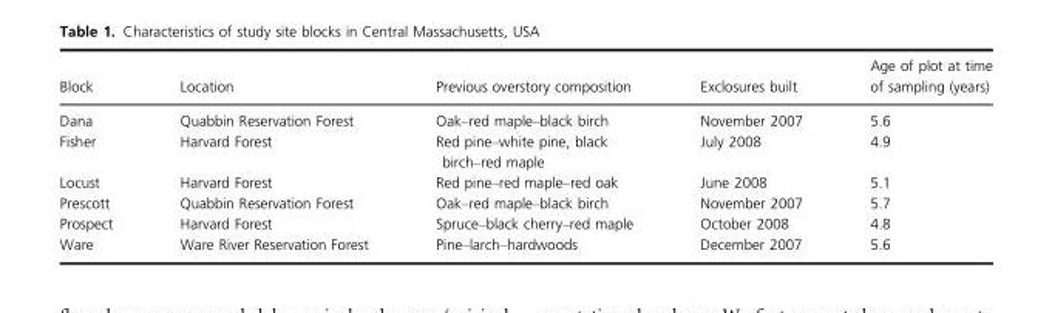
<table><thead><tr><td>Block</td><td>Location</td><td>Previous overstory composition</td><td>Exclosures built</td><td>Age of plot at time of sampling (years)</td></tr></thead><tbody><tr><td>Dana</td><td>Quabbin Reservation Forest</td><td>Oak–red maple–black birch</td><td>November 2007</td><td>5.6</td></tr><tr><td>Fisher</td><td>Harvard Forest</td><td>Red pine–white pine, black birch–red maple</td><td>July 2008</td><td>4.9</td></tr><tr><td>Locust</td><td>Harvard Forest</td><td>Red pine–red maple–red oak</td><td>June 2008</td><td>5.1</td></tr><tr><td>Prescott</td><td>Quabbin Reservation Forest</td><td>Oak–red maple–black birch</td><td>November 2007</td><td>5.7</td></tr><tr><td>Prospect</td><td>Harvard Forest</td><td>Spruce–black cherry–red maple</td><td>October 2008</td><td>4.8</td></tr><tr><td>Ware</td><td>Ware River Reservation Forest</td><td>Pine–larch–hardwoods</td><td>December 2007</td><td>5.6</td></tr></tbody></table>